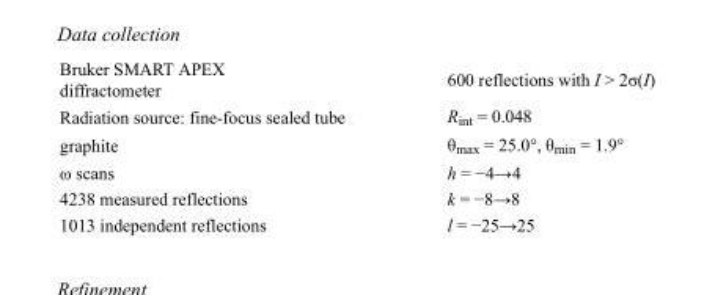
<table><tbody><tr><td>Bruker SMART APEX diffractometer</td><td>600 reflections with I &gt; 2σ(I)</td></tr><tr><td>Radiation source: fine-focus sealed tube</td><td>R<sub>int</sub> = 0.048</td></tr><tr><td>graphite</td><td>θ<sub>max</sub> = 25.0°, θ<sub>min</sub> = 1.9°</td></tr><tr><td>ω scans</td><td>h = −4→4</td></tr><tr><td>4238 measured reflections</td><td>k = −8→8</td></tr><tr><td>1013 independent reflections</td><td>l = −25→25</td></tr></tbody></table>